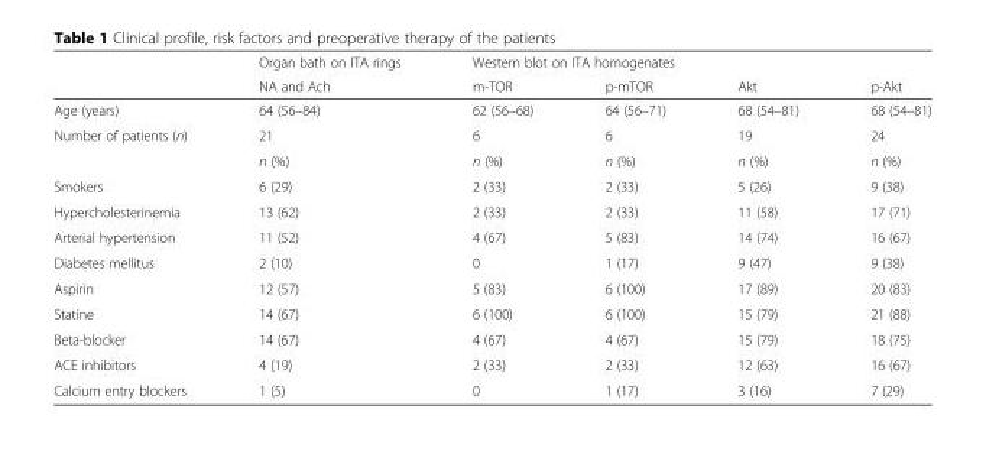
<table><thead><tr><td rowspan="2"></td><td rowspan="2">Organ bath on ITA rings NA and Ach</td><td colspan="4">Western blot on ITA homogenates</td></tr><tr><td>m-TOR</td><td>p-mTOR</td><td>Akt</td><td>p-Akt</td></tr></thead><tbody><tr><td>Age (years)</td><td>64 (56–84)</td><td>62 (56–68)</td><td>64 (56–71)</td><td>68 (54–81)</td><td>68 (54–81)</td></tr><tr><td rowspan="2">Number of patients (n)</td><td>21</td><td>6</td><td>6</td><td>19</td><td>24</td></tr><tr><td>n (%)</td><td>n (%)</td><td>n (%)</td><td>n (%)</td><td>n (%)</td></tr><tr><td>Smokers</td><td>6 (29)</td><td>2 (33)</td><td>2 (33)</td><td>5 (26)</td><td>9 (38)</td></tr><tr><td>Hypercholesterinemia</td><td>13 (62)</td><td>2 (33)</td><td>2 (33)</td><td>11 (58)</td><td>17 (71)</td></tr><tr><td>Arterial hypertension</td><td>11 (52)</td><td>4 (67)</td><td>5 (83)</td><td>14 (74)</td><td>16 (67)</td></tr><tr><td>Diabetes mellitus</td><td>2 (10)</td><td>0</td><td>1 (17)</td><td>9 (47)</td><td>9 (38)</td></tr><tr><td>Aspirin</td><td>12 (57)</td><td>5 (83)</td><td>6 (100)</td><td>17 (89)</td><td>20 (83)</td></tr><tr><td>Statine</td><td>14 (67)</td><td>6 (100)</td><td>6 (100)</td><td>15 (79)</td><td>21 (88)</td></tr><tr><td>Beta-blocker</td><td>14 (67)</td><td>4 (67)</td><td>4 (67)</td><td>15 (79)</td><td>18 (75)</td></tr><tr><td>ACE inhibitors</td><td>4 (19)</td><td>2 (33)</td><td>2 (33)</td><td>12 (63)</td><td>16 (67)</td></tr><tr><td>Calcium entry blockers</td><td>1 (5)</td><td>0</td><td>1 (17)</td><td>3 (16)</td><td>7 (29)</td></tr></tbody></table>